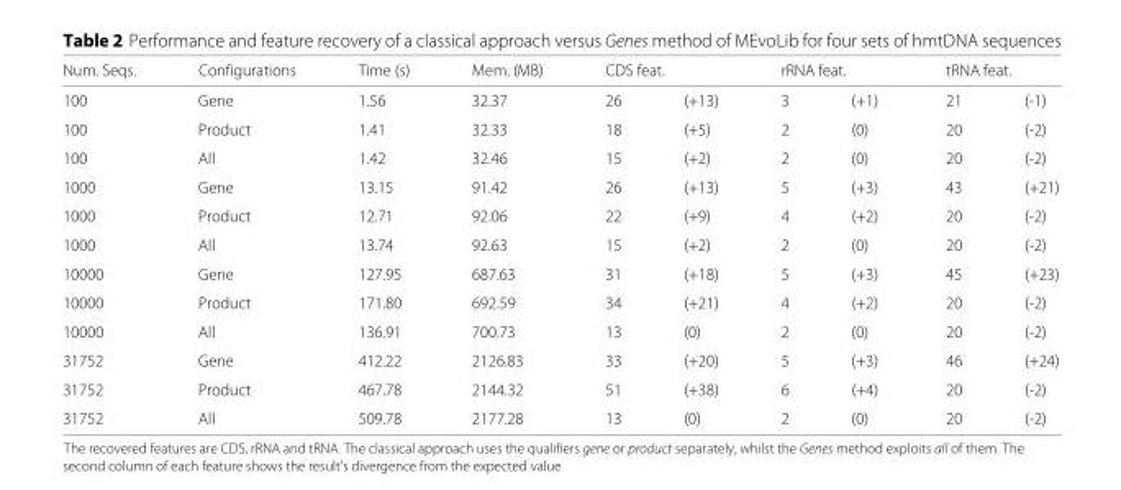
<table><thead><tr><td rowspan="2">Num. Seqs. 100</td><td rowspan="2">Configurations Gene</td><td rowspan="2">Time (s) 1.56</td><td rowspan="2">Mem. (MB) 32.37</td><td colspan="2">CDS feat.</td><td colspan="2">rRNA feat.</td><td colspan="2">tRNA feat.</td></tr><tr><td>26</td><td>(+13)</td><td>3</td><td>(+1)</td><td>21</td><td>(-1)</td></tr></thead><tbody><tr><td>100</td><td>Product</td><td>1.41</td><td>32.33</td><td>18</td><td>(+5)</td><td>2</td><td>(0)</td><td>20</td><td>(-2)</td></tr><tr><td>100</td><td>All</td><td>1.42</td><td>32.46</td><td>15</td><td>(+2)</td><td>2</td><td>(0)</td><td>20</td><td>(-2)</td></tr><tr><td>1000</td><td>Gene</td><td>13.15</td><td>91.42</td><td>26</td><td>(+13)</td><td>5</td><td>(+3)</td><td>43</td><td>(+21)</td></tr><tr><td>1000</td><td>Product</td><td>12.71</td><td>92.06</td><td>22</td><td>(+9)</td><td>4</td><td>(+2)</td><td>20</td><td>(-2)</td></tr><tr><td>1000</td><td>All</td><td>13.74</td><td>92.63</td><td>15</td><td>(+2)</td><td>2</td><td>(0)</td><td>20</td><td>(-2)</td></tr><tr><td>10000</td><td>Gene</td><td>127.95</td><td>687.63</td><td>31</td><td>(+18)</td><td>5</td><td>(+3)</td><td>45</td><td>(+23)</td></tr><tr><td>10000</td><td>Product</td><td>171.80</td><td>692.59</td><td>34</td><td>(+21)</td><td>4</td><td>(+2)</td><td>20</td><td>(-2)</td></tr><tr><td>10000</td><td>All</td><td>136.91</td><td>700.73</td><td>13</td><td>(0)</td><td>2</td><td>(0)</td><td>20</td><td>(-2)</td></tr><tr><td>31752</td><td>Gene</td><td>412.22</td><td>2126.83</td><td>33</td><td>(+20)</td><td>5</td><td>(+3)</td><td>46</td><td>(+24)</td></tr><tr><td>31752</td><td>Product</td><td>467.78</td><td>2144.32</td><td>51</td><td>(+38)</td><td>6</td><td>(+4)</td><td>20</td><td>(-2)</td></tr><tr><td>31752</td><td>All</td><td>509.78</td><td>2177.28</td><td>13</td><td>(0)</td><td>2</td><td>(0)</td><td>20</td><td>(-2)</td></tr></tbody></table>